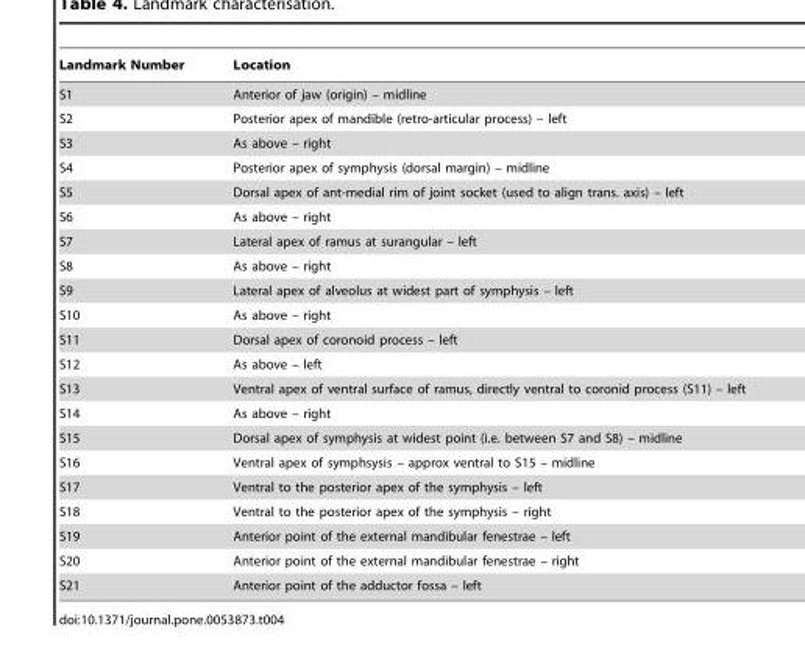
<table><thead><tr><td>Landmark Number</td><td>Location</td></tr></thead><tbody><tr><td>S1</td><td>Anterior of jaw (origin) – midline</td></tr><tr><td>S2</td><td>Posterior apex of mandible (retro-articular process) – left</td></tr><tr><td>S3</td><td>As above – right</td></tr><tr><td>S4</td><td>Posterior apex of symphysis (dorsal margin) – midline</td></tr><tr><td>S5</td><td>Dorsal apex of ant-medial rim of joint socket (used to align trans. axis) – left</td></tr><tr><td>S6</td><td>As above – right</td></tr><tr><td>S7</td><td>Lateral apex of ramus at surangular – left</td></tr><tr><td>S8</td><td>As above – right</td></tr><tr><td>S9</td><td>Lateral apex of alveolus at widest part of symphysis – left</td></tr><tr><td>S10</td><td>As above – right</td></tr><tr><td>S11</td><td>Dorsal apex of coronoid process – left</td></tr><tr><td>S12</td><td>As above – left</td></tr><tr><td>S13</td><td>Ventral apex of ventral surface of ramus, directly ventral to coronid process (S11) – left</td></tr><tr><td>S14</td><td>As above – right</td></tr><tr><td>S15</td><td>Dorsal apex of symphysis at widest point (i.e. between S7 and S8) – midline</td></tr><tr><td>S16</td><td>Ventral apex of symphsysis – approx ventral to S15 – midline</td></tr><tr><td>S17</td><td>Ventral to the posterior apex of the symphysis – left</td></tr><tr><td>S18</td><td>Ventral to the posterior apex of the symphysis – right</td></tr><tr><td>S19</td><td>Anterior point of the external mandibular fenestrae – left</td></tr><tr><td>S20</td><td>Anterior point of the external mandibular fenestrae – right</td></tr><tr><td>S21</td><td>Anterior point of the adductor fossa – left</td></tr></tbody></table>